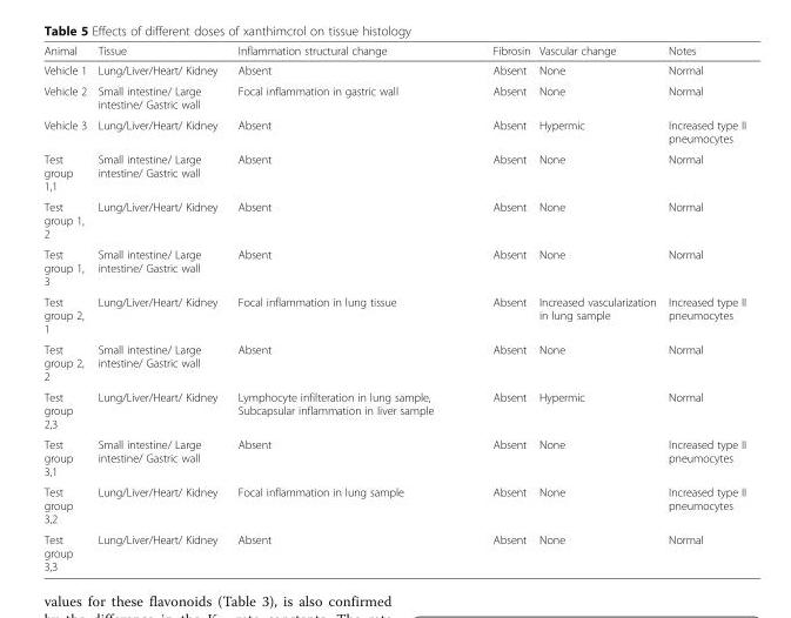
<table><thead><tr><td>Animal</td><td>Tissue</td><td>Inflammation structural change</td><td>Fibrosin</td><td>Vascular change</td><td>Notes</td></tr></thead><tbody><tr><td>Vehicle 1</td><td>Lung/Liver/Heart/ Kidney</td><td>Absent</td><td>Absent</td><td>None</td><td>Normal</td></tr><tr><td>Vehicle 2</td><td>Small intestine/ Large intestine/ Gastric wall</td><td>Focal inflammation in gastric wall</td><td>Absent</td><td>None</td><td>Normal</td></tr><tr><td>Vehicle 3</td><td>Lung/Liver/Heart/ Kidney</td><td>Absent</td><td>Absent</td><td>Hypermic</td><td>Increased type II pneumocytes</td></tr><tr><td>Test group 1,1</td><td>Small intestine/ Large intestine/ Gastric wall</td><td>Absent</td><td>Absent</td><td>None</td><td>Normal</td></tr><tr><td>Test group 1, 2</td><td>Lung/Liver/Heart/ Kidney</td><td>Absent</td><td>Absent</td><td>None</td><td>Normal</td></tr><tr><td>Test group 1, 3</td><td>Small intestine/ Large intestine/ Gastric wall</td><td>Absent</td><td>Absent</td><td>None</td><td>Normal</td></tr><tr><td>Test group 2, 1</td><td>Lung/Liver/Heart/ Kidney</td><td>Focal inflammation in lung tissue</td><td>Absent</td><td>Increased vascularization in lung sample</td><td>Increased type II pneumocytes</td></tr><tr><td>Test group 2, 2</td><td>Small intestine/ Large intestine/ Gastric wall</td><td>Absent</td><td>Absent</td><td>None</td><td>Normal</td></tr><tr><td>Test group 2,3</td><td>Lung/Liver/Heart/ Kidney</td><td>Lymphocyte infilteration in lung sample, Subcapsular inflammation in liver sample</td><td>Absent</td><td>Hypermic</td><td>Normal</td></tr><tr><td>Test group 3,1</td><td>Small intestine/ Large intestine/ Gastric wall</td><td>Absent</td><td>Absent</td><td>None</td><td>Increased type II pneumocytes</td></tr><tr><td>Test group 3,2</td><td>Lung/Liver/Heart/ Kidney</td><td>Focal inflammation in lung sample</td><td>Absent</td><td>None</td><td>Increased type II pneumocytes</td></tr><tr><td>Test group 3,3</td><td>Lung/Liver/Heart/ Kidney</td><td>Absent</td><td>Absent</td><td>None</td><td>Normal</td></tr></tbody></table>